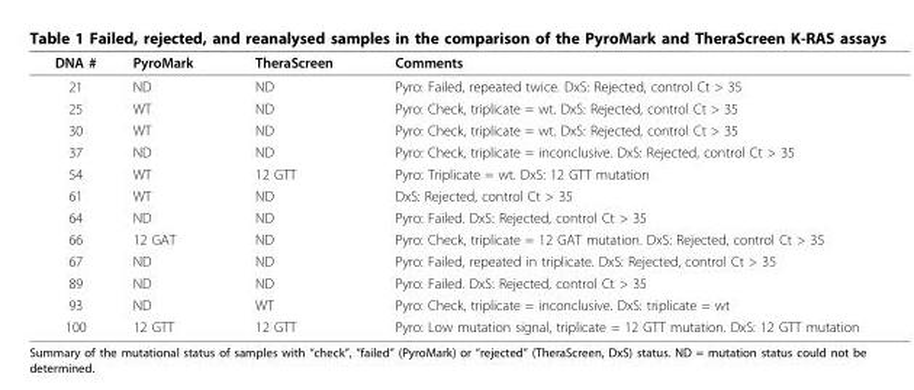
<table><thead><tr><td>DNA #</td><td>PyroMark</td><td>TheraScreen</td><td>Comments</td></tr></thead><tbody><tr><td>21</td><td>ND</td><td>ND</td><td>Pyro: Failed, repeated twice. DxS: Rejected, control Ct &gt; 35</td></tr><tr><td>25</td><td>WT</td><td>ND</td><td>Pyro: Check, triplicate = wt. DxS: Rejected, control Ct &gt; 35</td></tr><tr><td>30</td><td>WT</td><td>ND</td><td>Pyro: Check, triplicate = wt. DxS: Rejected, control Ct &gt; 35</td></tr><tr><td>37</td><td>ND</td><td>ND</td><td>Pyro: Check, triplicate = inconclusive. DxS: Rejected, control Ct &gt; 35</td></tr><tr><td>54</td><td>WT</td><td>12 GTT</td><td>Pyro: Triplicate = wt. DxS: 12 GTT mutation</td></tr><tr><td>61</td><td>WT</td><td>ND</td><td>DxS: Rejected, control Ct &gt; 35</td></tr><tr><td>64</td><td>ND</td><td>ND</td><td>Pyro: Failed. DxS: Rejected, control Ct &gt; 35</td></tr><tr><td>66</td><td>12 GAT</td><td>ND</td><td>Pyro: Check, triplicate = 12 GAT mutation. DxS: Rejected, control Ct &gt; 35</td></tr><tr><td>67</td><td>ND</td><td>ND</td><td>Pyro: Failed, repeated in triplicate. DxS: Rejected, control Ct &gt; 35</td></tr><tr><td>89</td><td>ND</td><td>ND</td><td>Pyro: Failed. DxS: Rejected, control Ct &gt; 35</td></tr><tr><td>93</td><td>ND</td><td>WT</td><td>Pyro: Check, triplicate = inconclusive. DxS: triplicate = wt</td></tr><tr><td>100</td><td>12 GTT</td><td>12 GTT</td><td>Pyro: Low mutation signal, triplicate = 12 GTT mutation. DxS: 12 GTT mutation</td></tr></tbody></table>